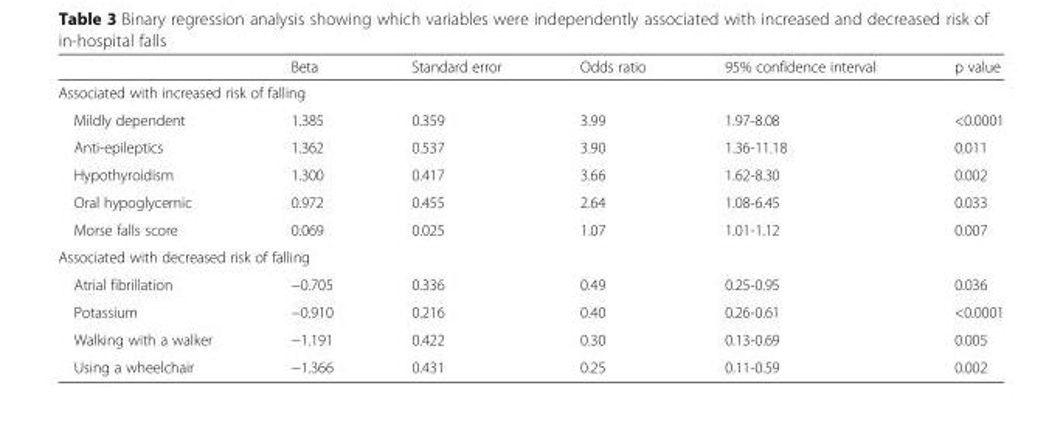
<table><thead><tr><td></td><td>Beta</td><td>Standard error</td><td>Odds ratio</td><td>95% confidence interval</td><td>p value</td></tr></thead><tbody><tr><td colspan="6">Associated with increased risk of falling</td></tr><tr><td>Mildly dependent</td><td>1.385</td><td>0.359</td><td>3.99</td><td>1.97-8.08</td><td>&lt;0.0001</td></tr><tr><td>Anti-epileptics</td><td>1.362</td><td>0.537</td><td>3.90</td><td>1.36-11.18</td><td>0.011</td></tr><tr><td>Hypothyroidism</td><td>1.300</td><td>0.417</td><td>3.66</td><td>1.62-8.30</td><td>0.002</td></tr><tr><td>Oral hypoglycemic</td><td>0.972</td><td>0.455</td><td>2.64</td><td>1.08-6.45</td><td>0.033</td></tr><tr><td>Morse falls score</td><td>0.069</td><td>0.025</td><td>1.07</td><td>1.01-1.12</td><td>0.007</td></tr><tr><td colspan="6">Associated with decreased risk of falling</td></tr><tr><td>Atrial fibrillation</td><td>−0.705</td><td>0.336</td><td>0.49</td><td>0.25-0.95</td><td>0.036</td></tr><tr><td>Potassium</td><td>−0.910</td><td>0.216</td><td>0.40</td><td>0.26-0.61</td><td>&lt;0.0001</td></tr><tr><td>Walking with a walker</td><td>−1.191</td><td>0.422</td><td>0.30</td><td>0.13-0.69</td><td>0.005</td></tr><tr><td>Using a wheelchair</td><td>−1.366</td><td>0.431</td><td>0.25</td><td>0.11-0.59</td><td>0.002</td></tr></tbody></table>